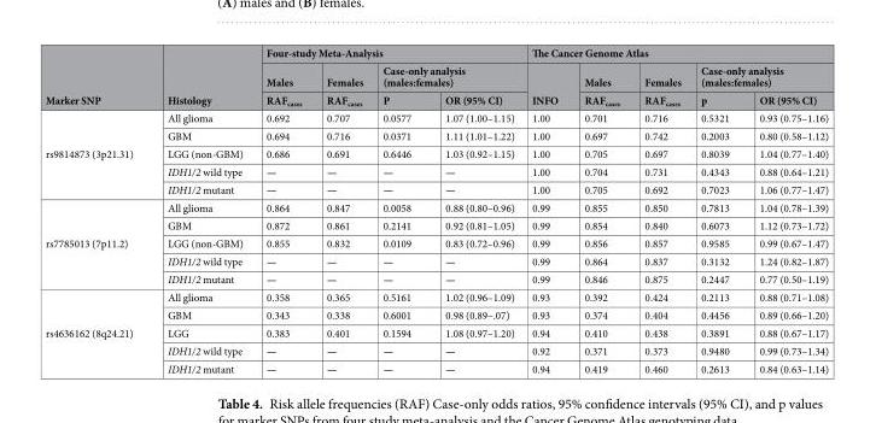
<table><thead><tr><td rowspan="3">Marker SNP</td><td rowspan="3">Histology</td><td colspan="4">Four-study Meta-Analysis</td><td colspan="5">The Cancer Genome Atlas</td></tr><tr><td rowspan="2">Males RAF<sub>cases</sub></td><td rowspan="2">Females RAF<sub>cases</sub></td><td colspan="2">Case-only analysis (males:females)</td><td rowspan="2">INFO</td><td rowspan="2">Males RAF<sub>cases</sub></td><td rowspan="2">Females RAF<sub>cases</sub></td><td colspan="2">Case-only analysis (males:females)</td></tr><tr><td>P</td><td>OR (95% CI)</td><td>p</td><td>OR (95% CI)</td></tr></thead><tbody><tr><td rowspan="5">rs9814873 (3p21.31)</td><td>All glioma</td><td>0.692</td><td>0.707</td><td>0.0577</td><td>1.07 (1.00–1.15)</td><td>1.00</td><td>0.701</td><td>0.716</td><td>0.5321</td><td>0.93 (0.75–1.16)</td></tr><tr><td>GBM</td><td>0.694</td><td>0.716</td><td>0.0371</td><td>1.11 (1.01–1.22)</td><td>1.00</td><td>0.697</td><td>0.742</td><td>0.2003</td><td>0.80 (0.58–1.12)</td></tr><tr><td>LGG (non-GBM)</td><td>0.686</td><td>0.691</td><td>0.6446</td><td>1.03 (0.92–1.15)</td><td>1.00</td><td>0.705</td><td>0.697</td><td>0.8039</td><td>1.04 (0.77–1.40)</td></tr><tr><td>IDH1/2 wild type</td><td>—</td><td>—</td><td>—</td><td>—</td><td>1.00</td><td>0.704</td><td>0.731</td><td>0.4343</td><td>0.88 (0.64–1.21)</td></tr><tr><td>IDH1/2 mutant</td><td>—</td><td>—</td><td>—</td><td>—</td><td>1.00</td><td>0.705</td><td>0.692</td><td>0.7023</td><td>1.06 (0.77–1.47)</td></tr><tr><td rowspan="5">rs7785013 (7p11.2)</td><td>All glioma</td><td>0.864</td><td>0.847</td><td>0.0058</td><td>0.88 (0.80–0.96)</td><td>0.99</td><td>0.855</td><td>0.850</td><td>0.7813</td><td>1.04 (0.78–1.39)</td></tr><tr><td>GBM</td><td>0.872</td><td>0.861</td><td>0.2141</td><td>0.92 (0.81–1.05)</td><td>0.99</td><td>0.854</td><td>0.840</td><td>0.6073</td><td>1.12 (0.73–1.72)</td></tr><tr><td>LGG (non-GBM)</td><td>0.855</td><td>0.832</td><td>0.0109</td><td>0.83 (0.72–0.96)</td><td>0.99</td><td>0.856</td><td>0.857</td><td>0.9585</td><td>0.99 (0.67–1.47)</td></tr><tr><td>IDH1/2 wild type</td><td>—</td><td>—</td><td>—</td><td>—</td><td>0.99</td><td>0.864</td><td>0.837</td><td>0.3132</td><td>1.24 (0.82–1.87)</td></tr><tr><td>IDH1/2 mutant</td><td>—</td><td>—</td><td>—</td><td>—</td><td>0.99</td><td>0.846</td><td>0.875</td><td>0.2447</td><td>0.77 (0.50–1.19)</td></tr><tr><td rowspan="5">rs4636162 (8q24.21)</td><td>All glioma</td><td>0.358</td><td>0.365</td><td>0.5161</td><td>1.02 (0.96–1.09)</td><td>0.93</td><td>0.392</td><td>0.424</td><td>0.2113</td><td>0.88 (0.71–1.08)</td></tr><tr><td>GBM</td><td>0.343</td><td>0.338</td><td>0.6001</td><td>0.98 (0.89–.07)</td><td>0.93</td><td>0.374</td><td>0.404</td><td>0.4456</td><td>0.89 (0.66–1.20)</td></tr><tr><td>LGG</td><td>0.383</td><td>0.401</td><td>0.1594</td><td>1.08 (0.97–1.20)</td><td>0.94</td><td>0.410</td><td>0.438</td><td>0.3891</td><td>0.88 (0.67–1.17)</td></tr><tr><td>IDH1/2 wild type</td><td>—</td><td>—</td><td>—</td><td>—</td><td>0.92</td><td>0.371</td><td>0.373</td><td>0.9480</td><td>0.99 (0.73–1.34)</td></tr><tr><td>IDH1/2 mutant</td><td>—</td><td>—</td><td>—</td><td>—</td><td>0.94</td><td>0.419</td><td>0.460</td><td>0.2613</td><td>0.84 (0.63–1.14)</td></tr></tbody></table>